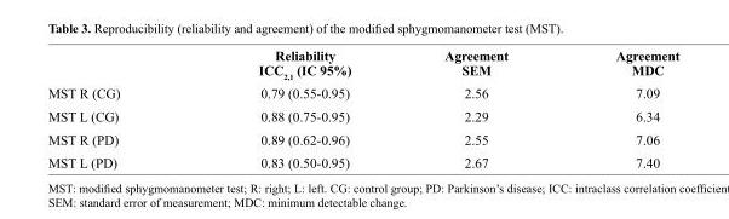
<table><thead><tr><td></td><td>Reliability ICC<sub>2,1</sub> (IC 95%)</td><td>Agreement SEM</td><td>Agreement MDC</td></tr></thead><tbody><tr><td>MST R (CG)</td><td>0.79 (0.55-0.95)</td><td>2.56</td><td>7.09</td></tr><tr><td>MST L (CG)</td><td>0.88 (0.75-0.95)</td><td>2.29</td><td>6.34</td></tr><tr><td>MST R (PD)</td><td>0.89 (0.62-0.96)</td><td>2.55</td><td>7.06</td></tr><tr><td>MST L (PD)</td><td>0.83 (0.50-0.95)</td><td>2.67</td><td>7.40</td></tr></tbody></table>